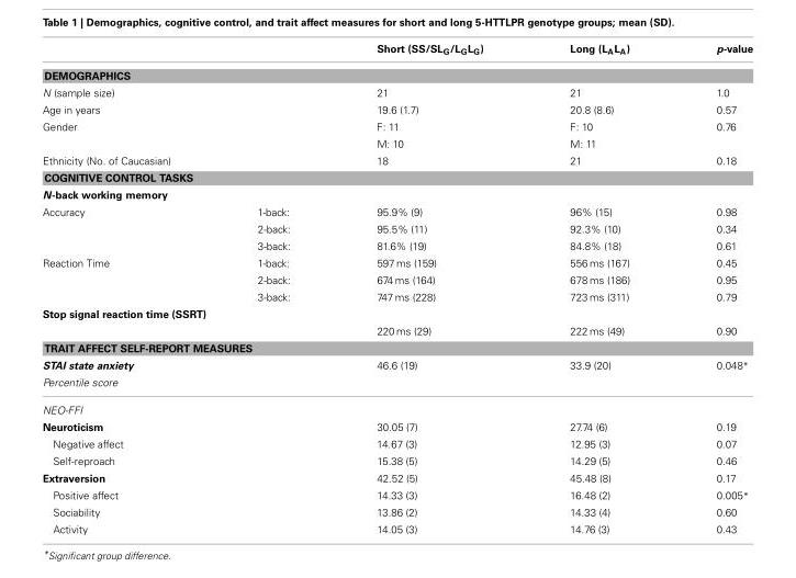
<table><thead><tr><td></td><td></td><td>Short (SS/SL<sub>G</sub>/L<sub>G</sub>L<sub>G</sub>)</td><td>Long (L<sub>A</sub>L<sub>A</sub>)</td><td>p-value</td></tr></thead><tbody><tr><td colspan="5">DEMOGRAPHICS</td></tr><tr><td>N (sample size)</td><td></td><td>21</td><td>21</td><td>1.0</td></tr><tr><td>Age in years</td><td></td><td>19.6 (1.7)</td><td>20.8 (8.6)</td><td>0.57</td></tr><tr><td rowspan="2">Gender</td><td></td><td>F: 11</td><td>F: 10</td><td>0.76</td></tr><tr><td></td><td>M: 10</td><td>M: 11</td><td></td></tr><tr><td>Ethnicity (No. of Caucasian)</td><td></td><td>18</td><td>21</td><td>0.18</td></tr><tr><td colspan="5">COGNITIVE CONTROL TASKS</td></tr><tr><td colspan="5">N-back working memory</td></tr><tr><td rowspan="3">Accuracy</td><td>1-back:</td><td>95.9% (9)</td><td>96% (15)</td><td>0.98</td></tr><tr><td>2-back:</td><td>95.5% (11)</td><td>92.3% (10)</td><td>0.34</td></tr><tr><td>3-back:</td><td>81.6% (19)</td><td>84.8% (18)</td><td>0.61</td></tr><tr><td rowspan="3">Reaction Time</td><td>1-back:</td><td>597 ms (159)</td><td>556 ms (167)</td><td>0.45</td></tr><tr><td>2-back:</td><td>674 ms (164)</td><td>678 ms (186)</td><td>0.95</td></tr><tr><td>3-back:</td><td>747 ms (228)</td><td>723 ms (311)</td><td>0.79</td></tr><tr><td colspan="5">Stop signal reaction time (SSRT)</td></tr><tr><td></td><td></td><td>220 ms (29)</td><td>222 ms (49)</td><td>0.90</td></tr><tr><td colspan="5">TRAIT AFFECT SELF-REPORT MEASURES</td></tr><tr><td>STAI state anxiety</td><td></td><td>46.6 (19)</td><td>33.9 (20)</td><td>0.048*</td></tr><tr><td colspan="5">Percentile score</td></tr><tr><td colspan="5">NEO-FFI</td></tr><tr><td>Neuroticism</td><td></td><td>30.05 (7)</td><td>27.74 (6)</td><td>0.19</td></tr><tr><td>Negative affect</td><td></td><td>14.67 (3)</td><td>12.95 (3)</td><td>0.07</td></tr><tr><td>Self-reproach</td><td></td><td>15.38 (5)</td><td>14.29 (5)</td><td>0.46</td></tr><tr><td>Extraversion</td><td></td><td>42.52 (5)</td><td>45.48 (8)</td><td>0.17</td></tr><tr><td>Positive affect</td><td></td><td>14.33 (3)</td><td>16.48 (2)</td><td>0.005*</td></tr><tr><td>Sociability</td><td></td><td>13.86 (2)</td><td>14.33 (4)</td><td>0.60</td></tr><tr><td>Activity</td><td></td><td>14.05 (3)</td><td>14.76 (3)</td><td>0.43</td></tr></tbody></table>